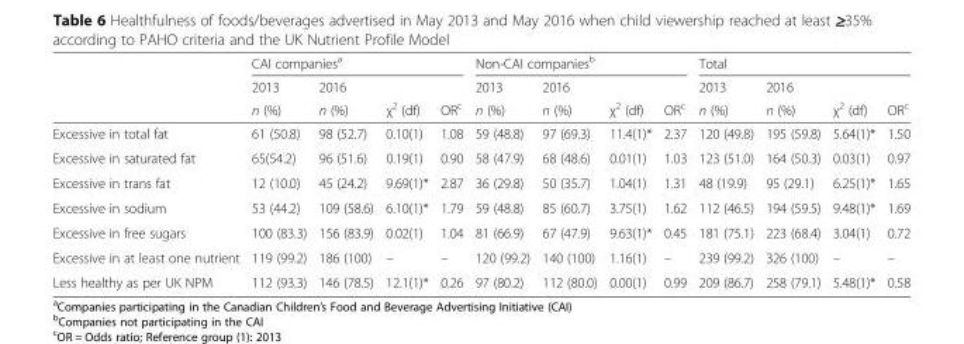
<table><thead><tr><td rowspan="3"></td><td colspan="4">CAI companies<sup>a</sup></td><td colspan="4">Non-CAI companies<sup>b</sup></td><td colspan="4">Total</td></tr><tr><td rowspan="2">2013 n (%)</td><td rowspan="2">2016 n (%)</td><td rowspan="2">χ<sup>2</sup> (df)</td><td rowspan="2">OR<sup>c</sup></td><td rowspan="2">2013 n (%)</td><td rowspan="2">2016 n (%)</td><td rowspan="2">χ<sup>2</sup> (df)</td><td rowspan="2">OR<sup>c</sup></td><td rowspan="2">2013 n (%)</td><td rowspan="2">2016 n (%)</td><td rowspan="2">χ<sup>2</sup> (df)</td><td rowspan="2">OR<sup>c</sup></td></tr><tr></tr></thead><tbody><tr><td>Excessive in total fat</td><td>61 (50.8)</td><td>98 (52.7)</td><td>0.10(1)</td><td>1.08</td><td>59 (48.8)</td><td>97 (69.3)</td><td>11.4(1)*</td><td>2.37</td><td>120 (49.8)</td><td>195 (59.8)</td><td>5.64(1)*</td><td>1.50</td></tr><tr><td>Excessive in saturated fat</td><td>65(54.2)</td><td>96 (51.6)</td><td>0.19(1)</td><td>0.90</td><td>58 (47.9)</td><td>68 (48.6)</td><td>0.01(1)</td><td>1.03</td><td>123 (51.0)</td><td>164 (50.3)</td><td>0.03(1)</td><td>0.97</td></tr><tr><td>Excessive in trans fat</td><td>12 (10.0)</td><td>45 (24.2)</td><td>9.69(1)*</td><td>2.87</td><td>36 (29.8)</td><td>50 (35.7)</td><td>1.04(1)</td><td>1.31</td><td>48 (19.9)</td><td>95 (29.1)</td><td>6.25(1)*</td><td>1.65</td></tr><tr><td>Excessive in sodium</td><td>53 (44.2)</td><td>109 (58.6)</td><td>6.10(1)*</td><td>1.79</td><td>59 (48.8)</td><td>85 (60.7)</td><td>3.75(1)</td><td>1.62</td><td>112 (46.5)</td><td>194 (59.5)</td><td>9.48(1)*</td><td>1.69</td></tr><tr><td>Excessive in free sugars</td><td>100 (83.3)</td><td>156 (83.9)</td><td>0.02(1)</td><td>1.04</td><td>81 (66.9)</td><td>67 (47.9)</td><td>9.63(1)*</td><td>0.45</td><td>181 (75.1)</td><td>223 (68.4)</td><td>3.04(1)</td><td>0.72</td></tr><tr><td>Excessive in at least one nutrient</td><td>119 (99.2)</td><td>186 (100)</td><td>–</td><td>–</td><td>120 (99.2)</td><td>140 (100)</td><td>1.16(1)</td><td>–</td><td>239 (99.2)</td><td>326 (100)</td><td>–</td><td>–</td></tr><tr><td>Less healthy as per UK NPM</td><td>112 (93.3)</td><td>146 (78.5)</td><td>12.1(1)*</td><td>0.26</td><td>97 (80.2)</td><td>112 (80.0)</td><td>0.00(1)</td><td>0.99</td><td>209 (86.7)</td><td>258 (79.1)</td><td>5.48(1)*</td><td>0.58</td></tr></tbody></table>